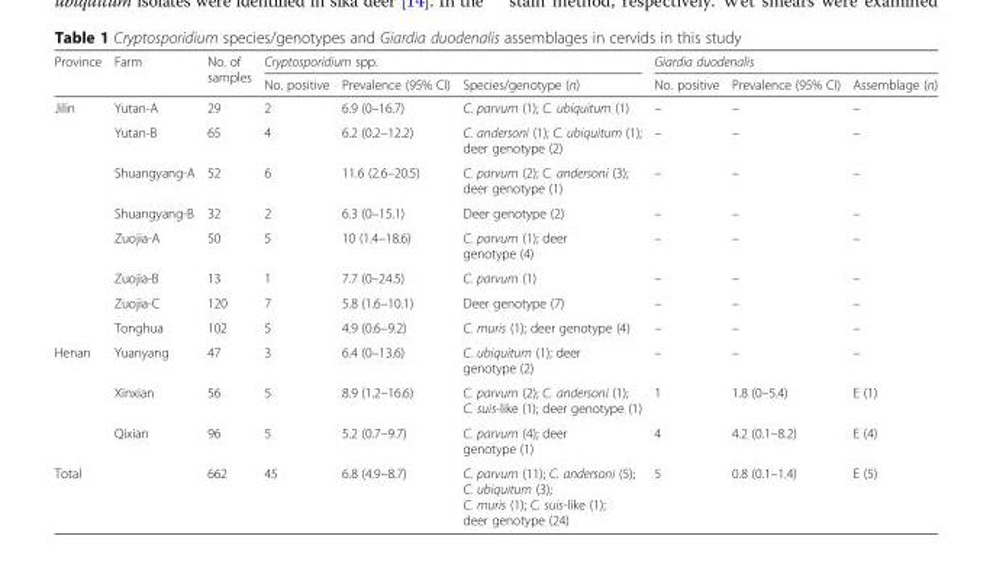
<table><thead><tr><td rowspan="2">Province</td><td rowspan="2">Farm</td><td rowspan="2">No. of samples</td><td colspan="3">Cryptosporidium spp.</td><td colspan="3">Giardia duodenalis</td></tr><tr><td>No. positive</td><td>Prevalence (95% CI)</td><td>Species/genotype (n)</td><td>No. positive</td><td>Prevalence (95% CI)</td><td>Assemblage (n)</td></tr></thead><tbody><tr><td rowspan="8">Jilin</td><td>Yutan-A</td><td>29</td><td>2</td><td>6.9 (0–16.7)</td><td>C. parvum (1); C. ubiquitum (1)</td><td>–</td><td>–</td><td>–</td></tr><tr><td>Yutan-B</td><td>65</td><td>4</td><td>6.2 (0.2–12.2)</td><td>C. andersoni (1); C. ubiquitum (1); deer genotype (2)</td><td>–</td><td>–</td><td>–</td></tr><tr><td>Shuangyang-A</td><td>52</td><td>6</td><td>11.6 (2.6–20.5)</td><td>C. parvum (2); C. andersoni (3); deer genotype (1)</td><td>–</td><td>–</td><td>–</td></tr><tr><td>Shuangyang-B</td><td>32</td><td>2</td><td>6.3 (0–15.1)</td><td>Deer genotype (2)</td><td>–</td><td>–</td><td>–</td></tr><tr><td>Zuojia-A</td><td>50</td><td>5</td><td>10 (1.4–18.6)</td><td>C. parvum (1); deer genotype (4)</td><td>–</td><td>–</td><td>–</td></tr><tr><td>Zuojia-B</td><td>13</td><td>1</td><td>7.7 (0–24.5)</td><td>C. parvum (1)</td><td>–</td><td>–</td><td>–</td></tr><tr><td>Zuojia-C</td><td>120</td><td>7</td><td>5.8 (1.6–10.1)</td><td>Deer genotype (7)</td><td>–</td><td>–</td><td>–</td></tr><tr><td>Tonghua</td><td>102</td><td>5</td><td>4.9 (0.6–9.2)</td><td>C. muris (1); deer genotype (4)</td><td>–</td><td>–</td><td>–</td></tr><tr><td rowspan="3">Henan</td><td>Yuanyang</td><td>47</td><td>3</td><td>6.4 (0–13.6)</td><td>C. ubiquitum (1); deer genotype (2)</td><td>–</td><td>–</td><td>–</td></tr><tr><td>Xinxian</td><td>56</td><td>5</td><td>8.9 (1.2–16.6)</td><td>C. parvum (2); C. andersoni (1); C. suis-like (1); deer genotype (1)</td><td>1</td><td>1.8 (0–5.4)</td><td>E (1)</td></tr><tr><td>Qixian</td><td>96</td><td>5</td><td>5.2 (0.7–9.7)</td><td>C. parvum (4); deer genotype (1)</td><td>4</td><td>4.2 (0.1–8.2)</td><td>E (4)</td></tr><tr><td>Total</td><td></td><td>662</td><td>45</td><td>6.8 (4.9–8.7)</td><td>C. parvum (11); C. andersoni (5); C. ubiquitum (3); C. muris (1); C. suis-like (1); deer genotype (24)</td><td>5</td><td>0.8 (0.1–1.4)</td><td>E (5)</td></tr></tbody></table>